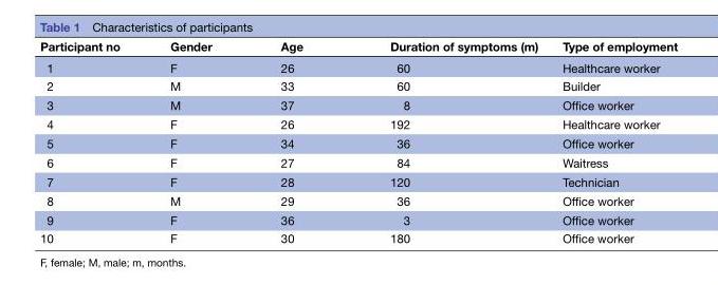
<table><thead><tr><td>Participant no</td><td>Gender</td><td>Age</td><td>Duration of symptoms (m)</td><td>Type of employment</td></tr></thead><tbody><tr><td>1</td><td>F</td><td>26</td><td>60</td><td>Healthcare worker</td></tr><tr><td>2</td><td>M</td><td>33</td><td>60</td><td>Builder</td></tr><tr><td>3</td><td>M</td><td>37</td><td>8</td><td>Office worker</td></tr><tr><td>4</td><td>F</td><td>26</td><td>192</td><td>Healthcare worker</td></tr><tr><td>5</td><td>F</td><td>34</td><td>36</td><td>Office worker</td></tr><tr><td>6</td><td>F</td><td>27</td><td>84</td><td>Waitress</td></tr><tr><td>7</td><td>F</td><td>28</td><td>120</td><td>Technician</td></tr><tr><td>8</td><td>M</td><td>29</td><td>36</td><td>Office worker</td></tr><tr><td>9</td><td>F</td><td>36</td><td>3</td><td>Office worker</td></tr><tr><td>10</td><td>F</td><td>30</td><td>180</td><td>Office worker</td></tr></tbody></table>